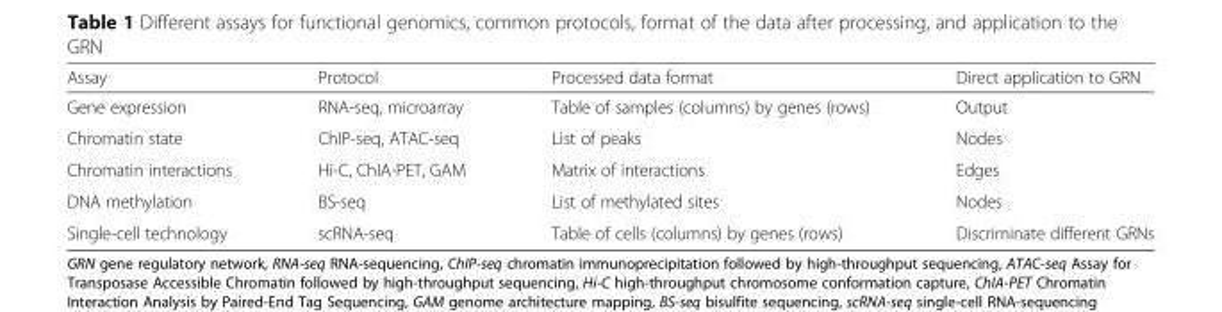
<table><thead><tr><td>Assay</td><td>Protocol</td><td>Processed data format</td><td>Direct application to GRN</td></tr></thead><tbody><tr><td>Gene expression</td><td>RNA-seq, microarray</td><td>Table of samples (columns) by genes (rows)</td><td>Output</td></tr><tr><td>Chromatin state</td><td>ChIP-seq, ATAC-seq</td><td>List of peaks</td><td>Nodes</td></tr><tr><td>Chromatin interactions</td><td>Hi-C, ChIA-PET, GAM</td><td>Matrix of interactions</td><td>Edges</td></tr><tr><td>DNA methylation</td><td>BS-seq</td><td>List of methylated sites</td><td>Nodes</td></tr><tr><td>Single-cell technology</td><td>scRNA-seq</td><td>Table of cells (columns) by genes (rows)</td><td>Discriminate different GRNs</td></tr></tbody></table>